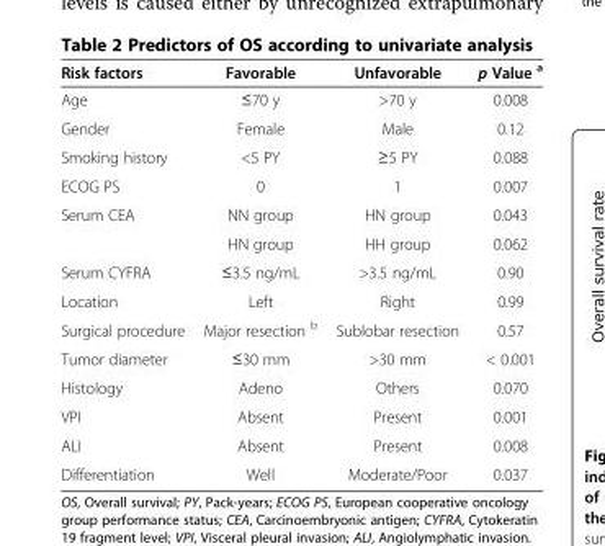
<table><thead><tr><td>Risk factors</td><td>Favorable</td><td>Unfavorable</td><td>p Value <sup>a</sup></td></tr></thead><tbody><tr><td>Age</td><td>≤70 y</td><td>&gt;70 y</td><td>0.008</td></tr><tr><td>Gender</td><td>Female</td><td>Male</td><td>0.12</td></tr><tr><td>Smoking history</td><td>&lt;5 PY</td><td>≥5 PY</td><td>0.088</td></tr><tr><td>ECOG PS</td><td>0</td><td>1</td><td>0.007</td></tr><tr><td rowspan="2">Serum CEA</td><td>NN group</td><td>HN group</td><td>0.043</td></tr><tr><td>HN group</td><td>HH group</td><td>0.062</td></tr><tr><td>Serum CYFRA</td><td>≤3.5 ng/mL</td><td>&gt;3.5 ng/mL</td><td>0.90</td></tr><tr><td>Location</td><td>Left</td><td>Right</td><td>0.99</td></tr><tr><td>Surgical procedure</td><td>Major resection <sup>b</sup></td><td>Sublobar resection</td><td>0.57</td></tr><tr><td>Tumor diameter</td><td>≤30 mm</td><td>&gt;30 mm</td><td>&lt; 0.001</td></tr><tr><td>Histology</td><td>Adeno</td><td>Others</td><td>0.070</td></tr><tr><td>VPI</td><td>Absent</td><td>Present</td><td>0.001</td></tr><tr><td>ALI</td><td>Absent</td><td>Present</td><td>0.008</td></tr><tr><td>Differentiation</td><td>Well</td><td>Moderate/Poor</td><td>0.037</td></tr></tbody></table>